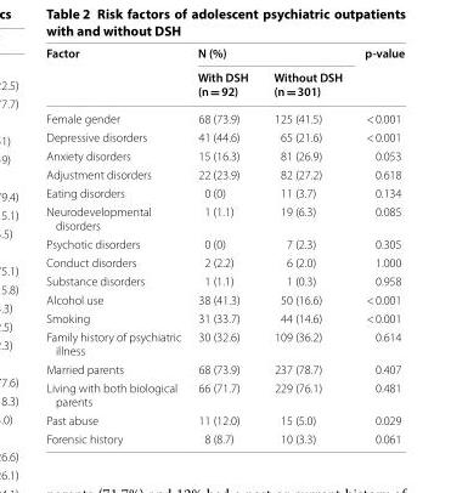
<table><thead><tr><td rowspan="2">Factor</td><td colspan="2">N (%)</td><td rowspan="2">p-value</td></tr><tr><td>With DSH (n = 92)</td><td>Without DSH (n = 301)</td></tr></thead><tbody><tr><td>Female gender</td><td>68 (73.9)</td><td>125 (41.5)</td><td>&lt; 0.001</td></tr><tr><td>Depressive disorders</td><td>41 (44.6)</td><td>65 (21.6)</td><td>&lt; 0.001</td></tr><tr><td>Anxiety disorders</td><td>15 (16.3)</td><td>81 (26.9)</td><td>0.053</td></tr><tr><td>Adjustment disorders</td><td>22 (23.9)</td><td>82 (27.2)</td><td>0.618</td></tr><tr><td>Eating disorders</td><td>0 (0)</td><td>11 (3.7)</td><td>0.134</td></tr><tr><td>Neurodevelopmental disorders</td><td>1 (1.1)</td><td>19 (6.3)</td><td>0.085</td></tr><tr><td>Psychotic disorders</td><td>0 (0)</td><td>7 (2.3)</td><td>0.305</td></tr><tr><td>Conduct disorders</td><td>2 (2.2)</td><td>6 (2.0)</td><td>1.000</td></tr><tr><td>Substance disorders</td><td>1 (1.1)</td><td>1 (0.3)</td><td>0.958</td></tr><tr><td>Alcohol use</td><td>38 (41.3)</td><td>50 (16.6)</td><td>&lt; 0.001</td></tr><tr><td>Smoking</td><td>31 (33.7)</td><td>44 (14.6)</td><td>&lt; 0.001</td></tr><tr><td>Family history of psychiatric illness</td><td>30 (32.6)</td><td>109 (36.2)</td><td>0.614</td></tr><tr><td>Married parents</td><td>68 (73.9)</td><td>237 (78.7)</td><td>0.407</td></tr><tr><td>Living with both biological parents</td><td>66 (71.7)</td><td>229 (76.1)</td><td>0.481</td></tr><tr><td>Past abuse</td><td>11 (12.0)</td><td>15 (5.0)</td><td>0.029</td></tr><tr><td>Forensic history</td><td>8 (8.7)</td><td>10 (3.3)</td><td>0.061</td></tr></tbody></table>